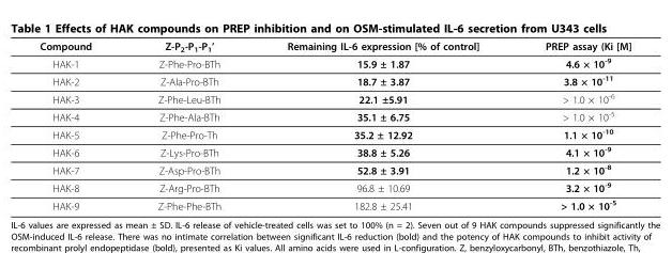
<table><thead><tr><td>Compound</td><td>Z-P<sub>2</sub>-P<sub>1</sub>-P<sub>1</sub>’</td><td>Remaining IL-6 expression [% of control]</td><td>PREP assay (Ki [M]</td></tr></thead><tbody><tr><td>HAK-1</td><td>Z-Phe-Pro-BTh</td><td>15.9 ± 1.87</td><td>4.6 × 10<sup>-9</sup></td></tr><tr><td>HAK-2</td><td>Z-Ala-Pro-BTh</td><td>18.7 ± 3.87</td><td>3.8 × 10<sup>-11</sup></td></tr><tr><td>HAK-3</td><td>Z-Phe-Leu-BTh</td><td>22.1 ±5.91</td><td>&gt; 1.0 × 10<sup>-6</sup></td></tr><tr><td>HAK-4</td><td>Z-Phe-Ala-BTh</td><td>35.1 ± 6.75</td><td>&gt; 1.0 × 10<sup>-5</sup></td></tr><tr><td>HAK-5</td><td>Z-Phe-Pro-Th</td><td>35.2 ± 12.92</td><td>1.1 × 10<sup>-10</sup></td></tr><tr><td>HAK-6</td><td>Z-Lys-Pro-BTh</td><td>38.8 ± 5.26</td><td>4.1 × 10<sup>-9</sup></td></tr><tr><td>HAK-7</td><td>Z-Asp-Pro-BTh</td><td>52.8 ± 3.91</td><td>1.2 × 10<sup>-8</sup></td></tr><tr><td>HAK-8</td><td>Z-Arg-Pro-BTh</td><td>96.8 ± 10.69</td><td>3.2 × 10<sup>-9</sup></td></tr><tr><td>HAK-9</td><td>Z-Phe-Phe-BTh</td><td>182.8 ± 25.41</td><td>&gt; 1.0 × 10<sup>-5</sup></td></tr></tbody></table>